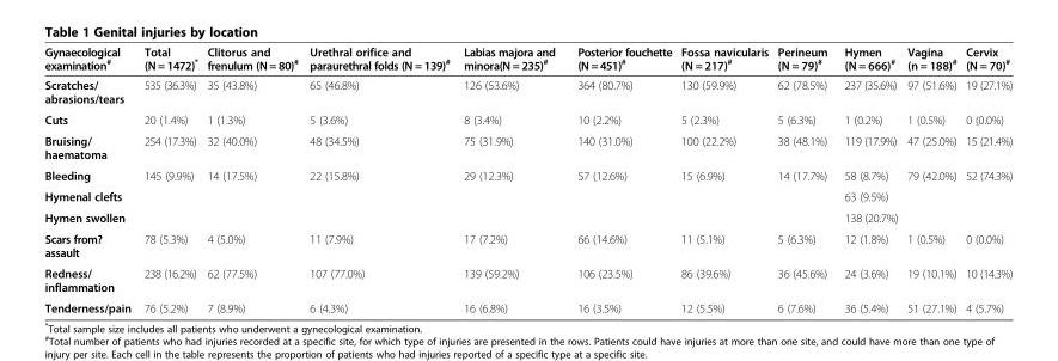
<table><thead><tr><td>Gynaecological examination<sup>#</sup></td><td>Total (N = 1472)*</td><td>Clitorus and frenulum (N = 80)<sup>#</sup></td><td>Urethral orifice and paraurethral folds (N = 139)<sup>#</sup></td><td>Labias majora and minora(N = 235)<sup>#</sup></td><td>Posterior fouchette (N = 451)<sup>#</sup></td><td>Fossa navicularis (N = 217)<sup>#</sup></td><td>Perineum (N = 79)<sup>#</sup></td><td>Hymen (N = 666)<sup>#</sup></td><td>Vagina (n = 188)<sup>#</sup></td><td>Cervix (N = 70)<sup>#</sup></td></tr></thead><tbody><tr><td>Scratches/ abrasions/tears</td><td>535 (36.3%)</td><td>35 (43.8%)</td><td>65 (46.8%)</td><td>126 (53.6%)</td><td>364 (80.7%)</td><td>130 (59.9%)</td><td>62 (78.5%)</td><td>237 (35.6%)</td><td>97 (51.6%)</td><td>19 (27.1%)</td></tr><tr><td>Cuts</td><td>20 (1.4%)</td><td>1 (1.3%)</td><td>5 (3.6%)</td><td>8 (3.4%)</td><td>10 (2.2%)</td><td>5 (2.3%)</td><td>5 (6.3%)</td><td>1 (0.2%)</td><td>1 (0.5%)</td><td>0 (0.0%)</td></tr><tr><td>Bruising/ haematoma</td><td>254 (17.3%)</td><td>32 (40.0%)</td><td>48 (34.5%)</td><td>75 (31.9%)</td><td>140 (31.0%)</td><td>100 (22.2%)</td><td>38 (48.1%)</td><td>119 (17.9%)</td><td>47 (25.0%)</td><td>15 (21.4%)</td></tr><tr><td>Bleeding</td><td>145 (9.9%)</td><td>14 (17.5%)</td><td>22 (15.8%)</td><td>29 (12.3%)</td><td>57 (12.6%)</td><td>15 (6.9%)</td><td>14 (17.7%)</td><td>58 (8.7%)</td><td>79 (42.0%)</td><td>52 (74.3%)</td></tr><tr><td>Hymenal clefts</td><td></td><td></td><td></td><td></td><td></td><td></td><td></td><td>63 (9.5%)</td><td></td><td></td></tr><tr><td>Hymen swollen</td><td></td><td></td><td></td><td></td><td></td><td></td><td></td><td>138 (20.7%)</td><td></td><td></td></tr><tr><td>Scars from? assault</td><td>78 (5.3%)</td><td>4 (5.0%)</td><td>11 (7.9%)</td><td>17 (7.2%)</td><td>66 (14.6%)</td><td>11 (5.1%)</td><td>5 (6.3%)</td><td>12 (1.8%)</td><td>1 (0.5%)</td><td>0 (0.0%)</td></tr><tr><td>Redness/ inflammation</td><td>238 (16.2%)</td><td>62 (77.5%)</td><td>107 (77.0%)</td><td>139 (59.2%)</td><td>106 (23.5%)</td><td>86 (39.6%)</td><td>36 (45.6%)</td><td>24 (3.6%)</td><td>19 (10.1%)</td><td>10 (14.3%)</td></tr><tr><td>Tenderness/pain</td><td>76 (5.2%)</td><td>7 (8.9%)</td><td>6 (4.3%)</td><td>16 (6.8%)</td><td>16 (3.5%)</td><td>12 (5.5%)</td><td>6 (7.6%)</td><td>36 (5.4%)</td><td>51 (27.1%)</td><td>4 (5.7%)</td></tr></tbody></table>